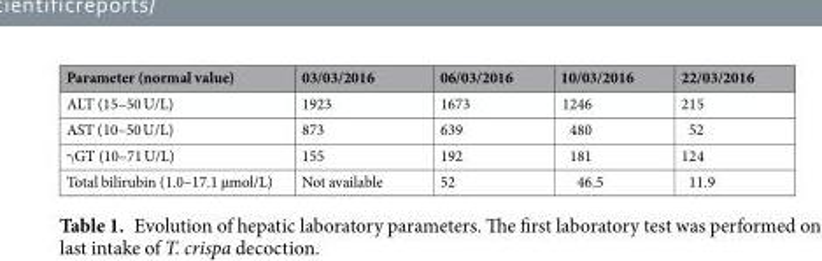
<table><thead><tr><td>Parameter (normal value)</td><td>03/03/2016</td><td>06/03/2016</td><td>10/03/2016</td><td>22/03/2016</td></tr></thead><tbody><tr><td>ALT (15–50 U/L)</td><td>1923</td><td>1673</td><td>1246</td><td>215</td></tr><tr><td>AST (10–50 U/L)</td><td>873</td><td>639</td><td>480</td><td>52</td></tr><tr><td>γGT (10–71 U/L)</td><td>155</td><td>192</td><td>181</td><td>124</td></tr><tr><td>Total bilirubin (1.0–17.1 µmol/L)</td><td>Not available</td><td>52</td><td>46.5</td><td>11.9</td></tr></tbody></table>